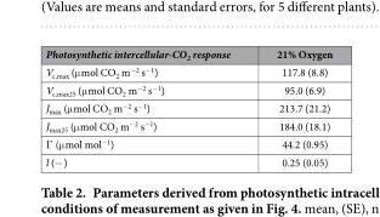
<table><thead><tr><td>Photosynthetic intercellular-CO<sub>2</sub> response</td><td>21% Oxygen</td></tr></thead><tbody><tr><td>V<sub>c,max</sub> (μ mol CO<sub>2</sub> m<sup>−2</sup> s<sup>−1</sup>)</td><td>117.8 (8.8)</td></tr><tr><td>V<sub>c,max25</sub> (μ mol CO<sub>2</sub> m<sup>−2</sup> s<sup>−1</sup>)</td><td>95.0 (6.9)</td></tr><tr><td>J<sub>max</sub> (μ mol CO<sub>2</sub> m<sup>−2</sup> s<sup>−1</sup>)</td><td>213.7 (21.2)</td></tr><tr><td>J<sub>max25</sub> (μ mol CO<sub>2</sub> m<sup>−2</sup> s<sup>−1</sup>)</td><td>184.0 (18.1)</td></tr><tr><td>Γ (μ mol mol<sup>−1</sup>)</td><td>44.2 (0.95)</td></tr><tr><td>l (− )</td><td>0.25 (0.05)</td></tr></tbody></table>